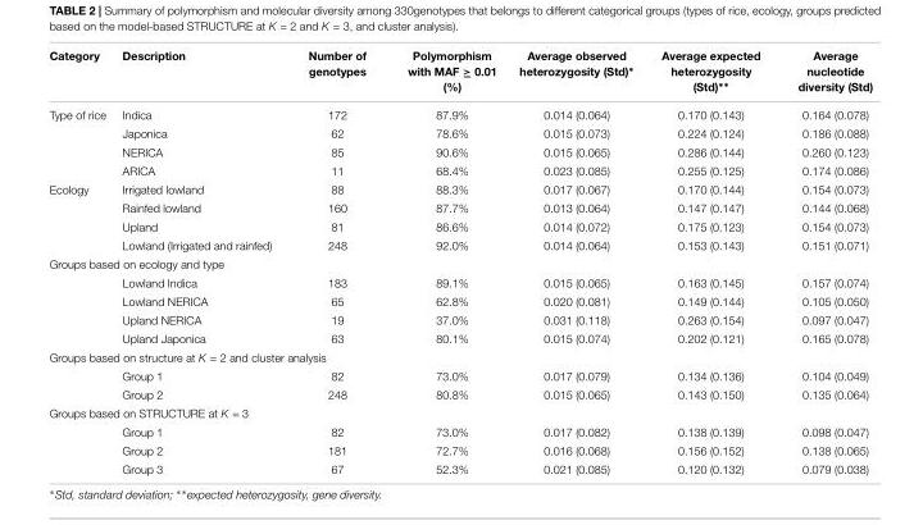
<table><thead><tr><td>Category</td><td>Description</td><td>Number of genotypes</td><td>Polymorphism with MAF ≥ 0.01 (%)</td><td>Average observed heterozygosity (Std)∗</td><td>Average expected heterozygosity (Std)∗∗</td><td>Average nucleotide diversity (Std)</td></tr></thead><tbody><tr><td rowspan="4">Type of rice</td><td>Indica</td><td>172</td><td>87.9%</td><td>0.014 (0.064)</td><td>0.170 (0.143)</td><td>0.164 (0.078)</td></tr><tr><td>Japonica</td><td>62</td><td>78.6%</td><td>0.015 (0.073)</td><td>0.224 (0.124)</td><td>0.186 (0.088)</td></tr><tr><td>NERICA</td><td>85</td><td>90.6%</td><td>0.015 (0.065)</td><td>0.286 (0.144)</td><td>0.260 (0.123)</td></tr><tr><td>ARICA</td><td>11</td><td>68.4%</td><td>0.023 (0.085)</td><td>0.255 (0.125)</td><td>0.174 (0.086)</td></tr><tr><td rowspan="4">Ecology</td><td>Irrigated lowland</td><td>88</td><td>88.3%</td><td>0.017 (0.067)</td><td>0.170 (0.144)</td><td>0.154 (0.073)</td></tr><tr><td>Rainfed lowland</td><td>160</td><td>87.7%</td><td>0.013 (0.064)</td><td>0.147 (0.147)</td><td>0.144 (0.068)</td></tr><tr><td>Upland</td><td>81</td><td>86.6%</td><td>0.014 (0.072)</td><td>0.175 (0.123)</td><td>0.154 (0.073)</td></tr><tr><td>Lowland (Irrigated and rainfed)</td><td>248</td><td>92.0%</td><td>0.014 (0.064)</td><td>0.153 (0.143)</td><td>0.151 (0.071)</td></tr><tr><td colspan="7">Groups based on ecology and type</td></tr><tr><td></td><td>Lowland Indica</td><td>183</td><td>89.1%</td><td>0.015 (0.065)</td><td>0.163 (0.145)</td><td>0.157 (0.074)</td></tr><tr><td></td><td>Lowland NERICA</td><td>65</td><td>62.8%</td><td>0.020 (0.081)</td><td>0.149 (0.144)</td><td>0.105 (0.050)</td></tr><tr><td></td><td>Upland NERICA</td><td>19</td><td>37.0%</td><td>0.031 (0.118)</td><td>0.263 (0.154)</td><td>0.097 (0.047)</td></tr><tr><td></td><td>Upland Japonica</td><td>63</td><td>80.1%</td><td>0.015 (0.074)</td><td>0.202 (0.121)</td><td>0.165 (0.078)</td></tr><tr><td colspan="7">Groups based on structure at K = 2 and cluster analysis</td></tr><tr><td></td><td>Group 1</td><td>82</td><td>73.0%</td><td>0.017 (0.079)</td><td>0.134 (0.136)</td><td>0.104 (0.049)</td></tr><tr><td></td><td>Group 2</td><td>248</td><td>80.8%</td><td>0.015 (0.065)</td><td>0.143 (0.150)</td><td>0.135 (0.064)</td></tr><tr><td colspan="7">Groups based on STRUCTURE at K = 3</td></tr><tr><td></td><td>Group 1</td><td>82</td><td>73.0%</td><td>0.017 (0.082)</td><td>0.138 (0.139)</td><td>0.098 (0.047)</td></tr><tr><td></td><td>Group 2</td><td>181</td><td>72.7%</td><td>0.016 (0.068)</td><td>0.156 (0.152)</td><td>0.138 (0.065)</td></tr><tr><td></td><td>Group 3</td><td>67</td><td>52.3%</td><td>0.021 (0.085)</td><td>0.120 (0.132)</td><td>0.079 (0.038)</td></tr></tbody></table>